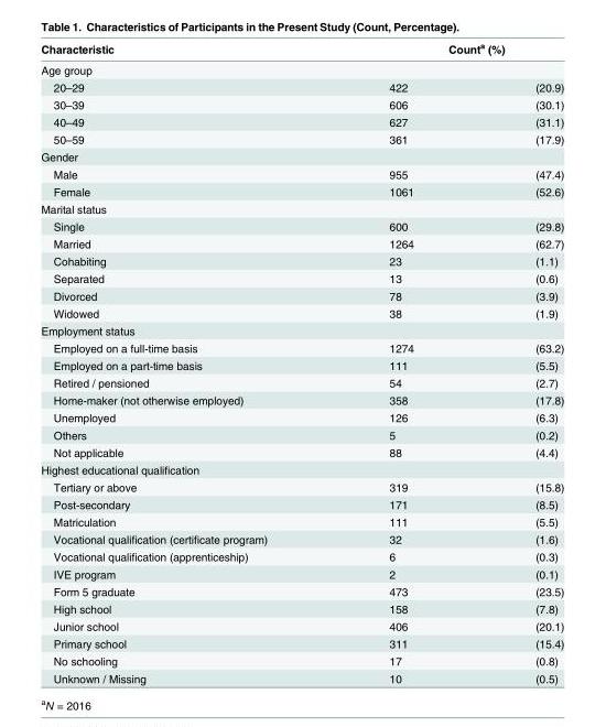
<table><thead><tr><td rowspan="2">Characteristic Age group</td><td colspan="2">Count<sup>a</sup> (%)</td></tr><tr><td></td><td></td></tr></thead><tbody><tr><td>20–29</td><td>422</td><td>(20.9)</td></tr><tr><td>30–39</td><td>606</td><td>(30.1)</td></tr><tr><td>40–49</td><td>627</td><td>(31.1)</td></tr><tr><td>50–59</td><td>361</td><td>(17.9)</td></tr><tr><td colspan="3">Gender</td></tr><tr><td>Male</td><td>955</td><td>(47.4)</td></tr><tr><td>Female</td><td>1061</td><td>(52.6)</td></tr><tr><td colspan="3">Marital status</td></tr><tr><td>Single</td><td>600</td><td>(29.8)</td></tr><tr><td>Married</td><td>1264</td><td>(62.7)</td></tr><tr><td>Cohabiting</td><td>23</td><td>(1.1)</td></tr><tr><td>Separated</td><td>13</td><td>(0.6)</td></tr><tr><td>Divorced</td><td>78</td><td>(3.9)</td></tr><tr><td>Widowed</td><td>38</td><td>(1.9)</td></tr><tr><td colspan="3">Employment status</td></tr><tr><td>Employed on a full-time basis</td><td>1274</td><td>(63.2)</td></tr><tr><td>Employed on a part-time basis</td><td>111</td><td>(5.5)</td></tr><tr><td>Retired / pensioned</td><td>54</td><td>(2.7)</td></tr><tr><td>Home-maker (not otherwise employed)</td><td>358</td><td>(17.8)</td></tr><tr><td>Unemployed</td><td>126</td><td>(6.3)</td></tr><tr><td>Others</td><td>5</td><td>(0.2)</td></tr><tr><td>Not applicable</td><td>88</td><td>(4.4)</td></tr><tr><td colspan="3">Highest educational qualification</td></tr><tr><td>Tertiary or above</td><td>319</td><td>(15.8)</td></tr><tr><td>Post-secondary</td><td>171</td><td>(8.5)</td></tr><tr><td>Matriculation</td><td>111</td><td>(5.5)</td></tr><tr><td>Vocational qualification (certificate program)</td><td>32</td><td>(1.6)</td></tr><tr><td>Vocational qualification (apprenticeship)</td><td>6</td><td>(0.3)</td></tr><tr><td>IVE program</td><td>2</td><td>(0.1)</td></tr><tr><td>Form 5 graduate</td><td>473</td><td>(23.5)</td></tr><tr><td>High school</td><td>158</td><td>(7.8)</td></tr><tr><td>Junior school</td><td>406</td><td>(20.1)</td></tr><tr><td>Primary school</td><td>311</td><td>(15.4)</td></tr><tr><td>No schooling</td><td>17</td><td>(0.8)</td></tr><tr><td>Unknown / Missing</td><td>10</td><td>(0.5)</td></tr></tbody></table>